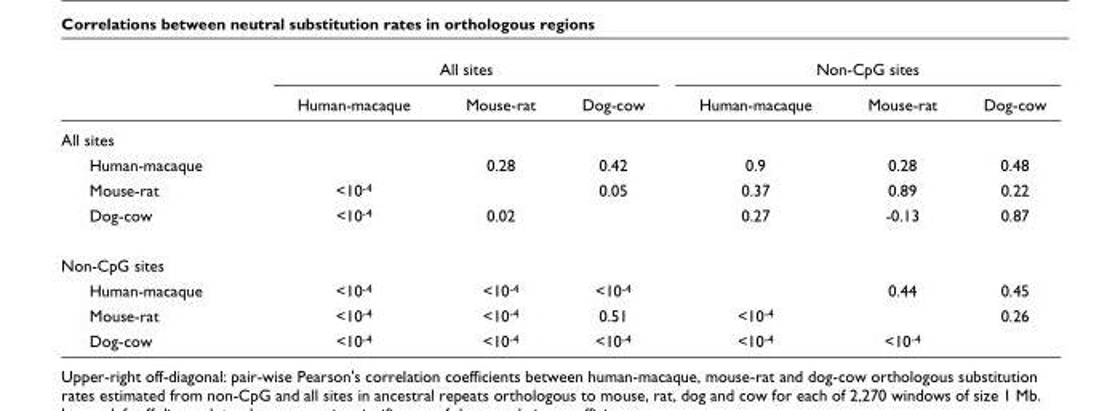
<table><thead><tr><td rowspan="2"></td><td colspan="3">All sites</td><td colspan="3">Non-CpG sites</td></tr><tr><td>Human-macaque</td><td>Mouse-rat</td><td>Dog-cow</td><td>Human-macaque</td><td>Mouse-rat</td><td>Dog-cow</td></tr></thead><tbody><tr><td colspan="7">All sites</td></tr><tr><td>Human-macaque</td><td></td><td>0.28</td><td>0.42</td><td>0.9</td><td>0.28</td><td>0.48</td></tr><tr><td>Mouse-rat</td><td>&lt;10<sup>-4</sup></td><td></td><td>0.05</td><td>0.37</td><td>0.89</td><td>0.22</td></tr><tr><td>Dog-cow</td><td>&lt;10<sup>-4</sup></td><td>0.02</td><td></td><td>0.27</td><td>-0.13</td><td>0.87</td></tr><tr><td colspan="7">Non-CpG sites</td></tr><tr><td>Human-macaque</td><td>&lt;10<sup>-4</sup></td><td>&lt;10<sup>-4</sup></td><td>&lt;10<sup>-4</sup></td><td></td><td>0.44</td><td>0.45</td></tr><tr><td>Mouse-rat</td><td>&lt;10<sup>-4</sup></td><td>&lt;10<sup>-4</sup></td><td>0.51</td><td>&lt;10<sup>-4</sup></td><td></td><td>0.26</td></tr><tr><td>Dog-cow</td><td>&lt;10<sup>-4</sup></td><td>&lt;10<sup>-4</sup></td><td>&lt;10<sup>-4</sup></td><td>&lt;10<sup>-4</sup></td><td>&lt;10<sup>-4</sup></td><td></td></tr></tbody></table>